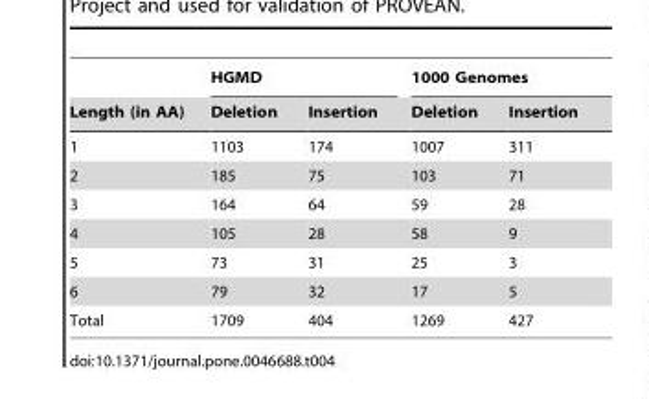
<table><thead><tr><td rowspan="2">Length (in AA)</td><td colspan="2">HGMD</td><td colspan="2">1000 Genomes</td></tr><tr><td>Deletion</td><td>Insertion</td><td>Deletion</td><td>Insertion</td></tr></thead><tbody><tr><td>1</td><td>1103</td><td>174</td><td>1007</td><td>311</td></tr><tr><td>2</td><td>185</td><td>75</td><td>103</td><td>71</td></tr><tr><td>3</td><td>164</td><td>64</td><td>59</td><td>28</td></tr><tr><td>4</td><td>105</td><td>28</td><td>58</td><td>9</td></tr><tr><td>5</td><td>73</td><td>31</td><td>25</td><td>3</td></tr><tr><td>6</td><td>79</td><td>32</td><td>17</td><td>5</td></tr><tr><td>Total</td><td>1709</td><td>404</td><td>1269</td><td>427</td></tr></tbody></table>